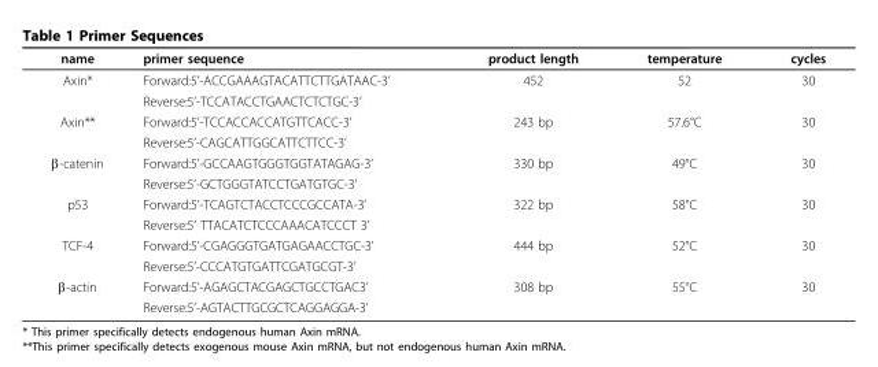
<table><thead><tr><td>name</td><td>primer sequence</td><td>product length</td><td>temperature</td><td>cycles</td></tr></thead><tbody><tr><td rowspan="2">Axin*</td><td>Forward:5’-ACCGAAAGTACATTCTTGATAAC-3’</td><td>452</td><td>52</td><td>30</td></tr><tr><td>Reverse:5’-TCCATACCTGAACTCTCTGC-3’</td><td></td><td></td><td></td></tr><tr><td rowspan="2">Axin**</td><td>Forward:5’-TCCACCACCATGTTCACC-3’</td><td>243 bp</td><td>57.6°C</td><td>30</td></tr><tr><td>Reverse:5’-CAGCATTGGCATTCTTCC-3’</td><td></td><td></td><td></td></tr><tr><td rowspan="2">β-catenin</td><td>Forward:5’-GCCAAGTGGGTGGTATAGAG-3’</td><td>330 bp</td><td>49°C</td><td>30</td></tr><tr><td>Reverse:5’-GCTGGGTATCCTGATGTGC-3’</td><td></td><td></td><td></td></tr><tr><td rowspan="2">p53</td><td>Forward:5’-TCAGTCTACCTCCCGCCATA-3’</td><td>322 bp</td><td>58°C</td><td>30</td></tr><tr><td>Reverse:5’ TTACATCTCCCAAACATCCCT 3’</td><td></td><td></td><td></td></tr><tr><td rowspan="2">TCF-4</td><td>Forward:5’-CGAGGGTGATGAGAACCTGC-3’</td><td>444 bp</td><td>52°C</td><td>30</td></tr><tr><td>Reverse:5’-CCCATGTGATTCGATGCGT-3’</td><td></td><td></td><td></td></tr><tr><td rowspan="2">β-actin</td><td>Forward:5’-AGAGCTACGAGCTGCCTGAC3’</td><td>308 bp</td><td>55°C</td><td>30</td></tr><tr><td>Reverse:5’-AGTACTTGCGCTCAGGAGGA-3’</td><td></td><td></td><td></td></tr></tbody></table>